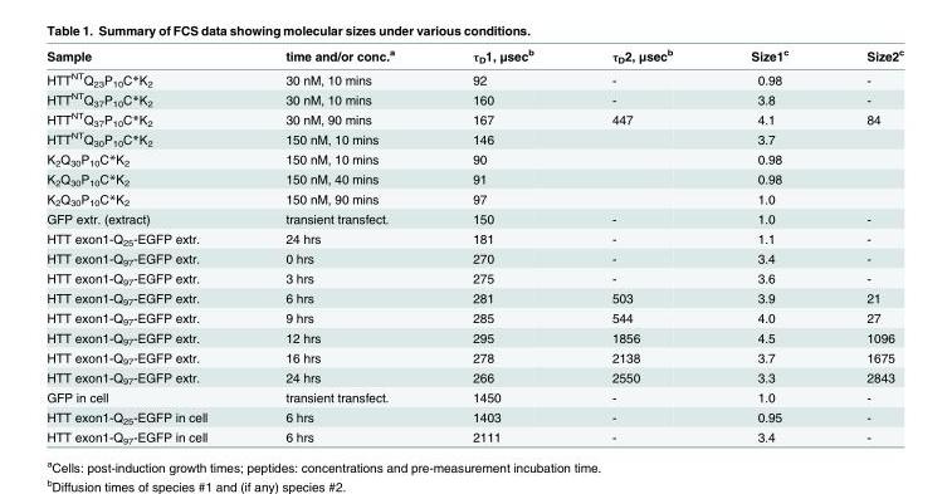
<table><thead><tr><td>Sample</td><td>time and/or conc.<sup>a</sup></td><td>τ<sub>D</sub>1, μsec<sup>b</sup></td><td>τ<sub>D</sub>2, μsec<sup>b</sup></td><td>Size1<sup>c</sup></td><td>Size2<sup>c</sup></td></tr></thead><tbody><tr><td>HTT<sup>NT</sup>Q<sub>23</sub>P<sub>10</sub>C*K<sub>2</sub></td><td>30 nM, 10 mins</td><td>92</td><td>-</td><td>0.98</td><td>-</td></tr><tr><td>HTT<sup>NT</sup>Q<sub>37</sub>P<sub>10</sub>C*K<sub>2</sub></td><td>30 nM, 10 mins</td><td>160</td><td>-</td><td>3.8</td><td>-</td></tr><tr><td>HTT<sup>NT</sup>Q<sub>37</sub>P<sub>10</sub>C*K<sub>2</sub></td><td>30 nM, 90 mins</td><td>167</td><td>447</td><td>4.1</td><td>84</td></tr><tr><td>HTT<sup>NT</sup>Q<sub>30</sub>P<sub>10</sub>C*K<sub>2</sub></td><td>150 nM, 10 mins</td><td>146</td><td></td><td>3.7</td><td></td></tr><tr><td>K<sub>2</sub>Q<sub>30</sub>P<sub>10</sub>C*K<sub>2</sub></td><td>150 nM, 10 mins</td><td>90</td><td></td><td>0.98</td><td></td></tr><tr><td>K<sub>2</sub>Q<sub>30</sub>P<sub>10</sub>C*K<sub>2</sub></td><td>150 nM, 40 mins</td><td>91</td><td></td><td>0.98</td><td></td></tr><tr><td>K<sub>2</sub>Q<sub>30</sub>P<sub>10</sub>C*K<sub>2</sub></td><td>150 nM, 90 mins</td><td>97</td><td></td><td>1.0</td><td></td></tr><tr><td>GFP extr. (extract)</td><td>transient transfect.</td><td>150</td><td>-</td><td>1.0</td><td>-</td></tr><tr><td>HTT exon1-Q<sub>25</sub>-EGFP extr.</td><td>24 hrs</td><td>181</td><td>-</td><td>1.1</td><td>-</td></tr><tr><td>HTT exon1-Q<sub>97</sub>-EGFP extr.</td><td>0 hrs</td><td>270</td><td>-</td><td>3.4</td><td>-</td></tr><tr><td>HTT exon1-Q<sub>97</sub>-EGFP extr.</td><td>3 hrs</td><td>275</td><td>-</td><td>3.6</td><td>-</td></tr><tr><td>HTT exon1-Q<sub>97</sub>-EGFP extr.</td><td>6 hrs</td><td>281</td><td>503</td><td>3.9</td><td>21</td></tr><tr><td>HTT exon1-Q<sub>97</sub>-EGFP extr.</td><td>9 hrs</td><td>285</td><td>544</td><td>4.0</td><td>27</td></tr><tr><td>HTT exon1-Q<sub>97</sub>-EGFP extr.</td><td>12 hrs</td><td>295</td><td>1856</td><td>4.5</td><td>1096</td></tr><tr><td>HTT exon1-Q<sub>97</sub>-EGFP extr.</td><td>16 hrs</td><td>278</td><td>2138</td><td>3.7</td><td>1675</td></tr><tr><td>HTT exon1-Q<sub>97</sub>-EGFP extr.</td><td>24 hrs</td><td>266</td><td>2550</td><td>3.3</td><td>2843</td></tr><tr><td>GFP in cell</td><td>transient transfect.</td><td>1450</td><td>-</td><td>1.0</td><td>-</td></tr><tr><td>HTT exon1-Q<sub>25</sub>-EGFP in cell</td><td>6 hrs</td><td>1403</td><td>-</td><td>0.95</td><td>-</td></tr><tr><td>HTT exon1-Q<sub>97</sub>-EGFP in cell</td><td>6 hrs</td><td>2111</td><td>-</td><td>3.4</td><td>-</td></tr></tbody></table>